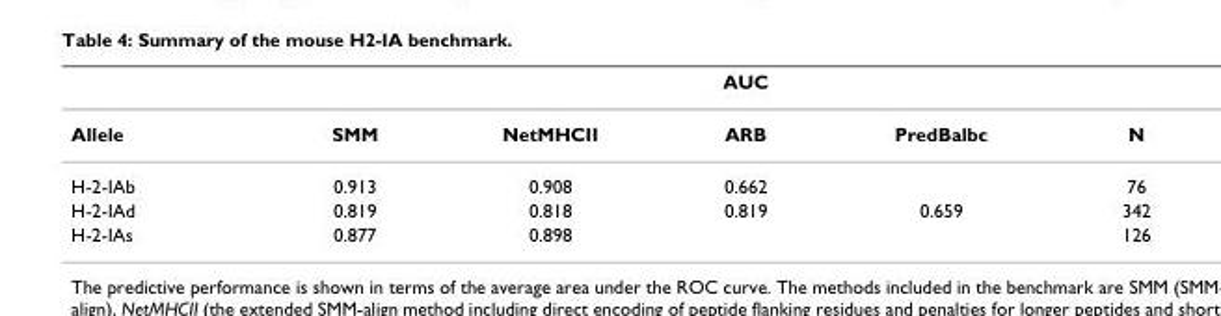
<table><thead><tr><td rowspan="2">Allele</td><td colspan="5">AUC</td></tr><tr><td>SMM</td><td>NetMHCII</td><td>ARB</td><td>PredBalbc</td><td>N</td></tr></thead><tbody><tr><td>H-2-IAb</td><td>0.913</td><td>0.908</td><td>0.662</td><td></td><td>76</td></tr><tr><td>H-2-IAd</td><td>0.819</td><td>0.818</td><td>0.819</td><td>0.659</td><td>342</td></tr><tr><td>H-2-IAs</td><td>0.877</td><td>0.898</td><td></td><td></td><td>126</td></tr></tbody></table>